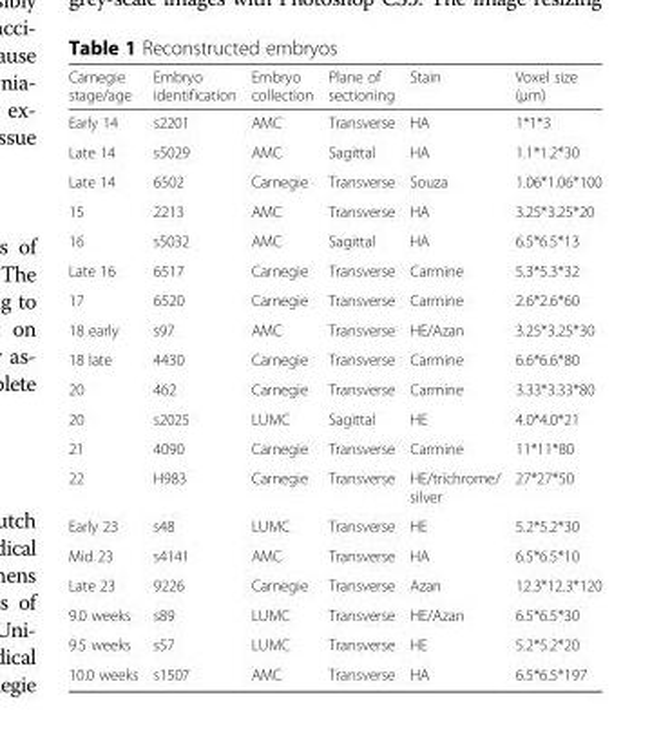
<table><thead><tr><td>Carnegie stage/age</td><td>Embryo identification</td><td>Embryo collection</td><td>Plane of sectioning</td><td>Stain</td><td>Voxel size (μm)</td></tr></thead><tbody><tr><td>Early 14</td><td>s2201</td><td>AMC</td><td>Transverse</td><td>HA</td><td>1*1*3</td></tr><tr><td>Late 14</td><td>s5029</td><td>AMC</td><td>Sagittal</td><td>HA</td><td>1.1*1.2*30</td></tr><tr><td>Late 14</td><td>6502</td><td>Carnegie</td><td>Transverse</td><td>Souza</td><td>1.06*1.06*100</td></tr><tr><td>15</td><td>2213</td><td>AMC</td><td>Transverse</td><td>HA</td><td>3.25*3.25*20</td></tr><tr><td>16</td><td>s5032</td><td>AMC</td><td>Sagittal</td><td>HA</td><td>6.5*6.5*13</td></tr><tr><td>Late 16</td><td>6517</td><td>Carnegie</td><td>Transverse</td><td>Carmine</td><td>5.3*5.3*32</td></tr><tr><td>17</td><td>6520</td><td>Carnegie</td><td>Transverse</td><td>Carmine</td><td>2.6*2.6*60</td></tr><tr><td>18 early</td><td>s97</td><td>AMC</td><td>Transverse</td><td>HE/Azan</td><td>3.25*3.25*30</td></tr><tr><td>18 late</td><td>4430</td><td>Carnegie</td><td>Transverse</td><td>Carmine</td><td>6.6*6.6*80</td></tr><tr><td>20</td><td>462</td><td>Carnegie</td><td>Transverse</td><td>Carmine</td><td>3.33*3.33*80</td></tr><tr><td>20</td><td>s2025</td><td>LUMC</td><td>Sagittal</td><td>HE</td><td>4.0*4.0*21</td></tr><tr><td>21</td><td>4090</td><td>Carnegie</td><td>Transverse</td><td>Carmine</td><td>11*11*80</td></tr><tr><td>22</td><td>H983</td><td>Carnegie</td><td>Transverse</td><td>HE/trichrome/ silver</td><td>27*27*50</td></tr><tr><td>Early 23</td><td>s48</td><td>LUMC</td><td>Transverse</td><td>HE</td><td>5.2*5.2*30</td></tr><tr><td>Mid 23</td><td>s4141</td><td>AMC</td><td>Transverse</td><td>HA</td><td>6.5*6.5*10</td></tr><tr><td>Late 23</td><td>9226</td><td>Carnegie</td><td>Transverse</td><td>Azan</td><td>12.3*12.3*120</td></tr><tr><td>9.0 weeks</td><td>s89</td><td>LUMC</td><td>Transverse</td><td>HE/Azan</td><td>6.5*6.5*30</td></tr><tr><td>9.5 weeks</td><td>s57</td><td>LUMC</td><td>Transverse</td><td>HE</td><td>5.2*5.2*20</td></tr><tr><td>10.0 weeks</td><td>s1507</td><td>AMC</td><td>Transverse</td><td>HA</td><td>6.5*6.5*197</td></tr></tbody></table>